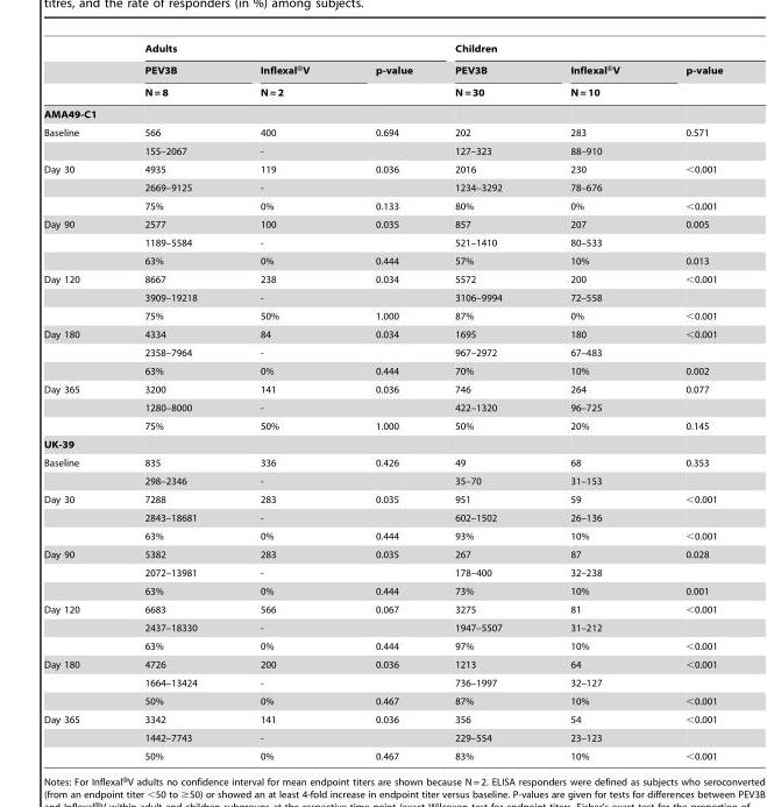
<table><thead><tr><td rowspan="3"></td><td colspan="3">Adults</td><td colspan="3">Children</td></tr><tr><td rowspan="2">PEV3B N = 8</td><td rowspan="2">Inflexal®V N = 2</td><td rowspan="2">p-value</td><td rowspan="2">PEV3B N = 30</td><td rowspan="2">Inflexal®V N = 10</td><td rowspan="2">p-value</td></tr><tr></tr></thead><tbody><tr><td colspan="7">AMA49-C1</td></tr><tr><td rowspan="2">Baseline</td><td>566</td><td>400</td><td>0.694</td><td>202</td><td>283</td><td>0.571</td></tr><tr><td>155–2067</td><td>-</td><td></td><td>127–323</td><td>88–910</td><td></td></tr><tr><td rowspan="3">Day 30</td><td>4935</td><td>119</td><td>0.036</td><td>2016</td><td>230</td><td>&lt;0.001</td></tr><tr><td>2669–9125</td><td>-</td><td></td><td>1234–3292</td><td>78–676</td><td></td></tr><tr><td>75%</td><td>0%</td><td>0.133</td><td>80%</td><td>0%</td><td>&lt;0.001</td></tr><tr><td rowspan="3">Day 90</td><td>2577</td><td>100</td><td>0.035</td><td>857</td><td>207</td><td>0.005</td></tr><tr><td>1189–5584</td><td>-</td><td></td><td>521–1410</td><td>80–533</td><td></td></tr><tr><td>63%</td><td>0%</td><td>0.444</td><td>57%</td><td>10%</td><td>0.013</td></tr><tr><td rowspan="3">Day 120</td><td>8667</td><td>238</td><td>0.034</td><td>5572</td><td>200</td><td>&lt;0.001</td></tr><tr><td>3909–19218</td><td>-</td><td></td><td>3106–9994</td><td>72–558</td><td></td></tr><tr><td>75%</td><td>50%</td><td>1.000</td><td>87%</td><td>0%</td><td>&lt;0.001</td></tr><tr><td rowspan="3">Day 180</td><td>4334</td><td>84</td><td>0.034</td><td>1695</td><td>180</td><td>&lt;0.001</td></tr><tr><td>2358–7964</td><td>-</td><td></td><td>967–2972</td><td>67–483</td><td></td></tr><tr><td>63%</td><td>0%</td><td>0.444</td><td>70%</td><td>10%</td><td>0.002</td></tr><tr><td rowspan="3">Day 365</td><td>3200</td><td>141</td><td>0.036</td><td>746</td><td>264</td><td>0.077</td></tr><tr><td>1280–8000</td><td>-</td><td></td><td>422–1320</td><td>96–725</td><td></td></tr><tr><td>75%</td><td>50%</td><td>1.000</td><td>50%</td><td>20%</td><td>0.145</td></tr><tr><td colspan="7">UK-39</td></tr><tr><td rowspan="2">Baseline</td><td>835</td><td>336</td><td>0.426</td><td>49</td><td>68</td><td>0.353</td></tr><tr><td>298–2346</td><td>-</td><td></td><td>35–70</td><td>31–153</td><td></td></tr><tr><td rowspan="3">Day 30</td><td>7288</td><td>283</td><td>0.035</td><td>951</td><td>59</td><td>&lt;0.001</td></tr><tr><td>2843–18681</td><td>-</td><td></td><td>602–1502</td><td>26–136</td><td></td></tr><tr><td>63%</td><td>0%</td><td>0.444</td><td>93%</td><td>10%</td><td>&lt;0.001</td></tr><tr><td rowspan="3">Day 90</td><td>5382</td><td>283</td><td>0.035</td><td>267</td><td>87</td><td>0.028</td></tr><tr><td>2072–13981</td><td>-</td><td></td><td>178–400</td><td>32–238</td><td></td></tr><tr><td>63%</td><td>0%</td><td>0.444</td><td>73%</td><td>10%</td><td>0.001</td></tr><tr><td rowspan="3">Day 120</td><td>6683</td><td>566</td><td>0.067</td><td>3275</td><td>81</td><td>&lt;0.001</td></tr><tr><td>2437–18330</td><td>-</td><td></td><td>1947–5507</td><td>31–212</td><td></td></tr><tr><td>63%</td><td>0%</td><td>0.444</td><td>97%</td><td>10%</td><td>&lt;0.001</td></tr><tr><td rowspan="3">Day 180</td><td>4726</td><td>200</td><td>0.036</td><td>1213</td><td>64</td><td>&lt;0.001</td></tr><tr><td>1664–13424</td><td>-</td><td></td><td>736–1997</td><td>32–127</td><td></td></tr><tr><td>50%</td><td>0%</td><td>0.467</td><td>87%</td><td>10%</td><td>&lt;0.001</td></tr><tr><td rowspan="3">Day 365</td><td>3342</td><td>141</td><td>0.036</td><td>356</td><td>54</td><td>&lt;0.001</td></tr><tr><td>1442–7743</td><td>-</td><td></td><td>229–554</td><td>23–123</td><td></td></tr><tr><td>50%</td><td>0%</td><td>0.467</td><td>83%</td><td>10%</td><td>&lt;0.001</td></tr></tbody></table>